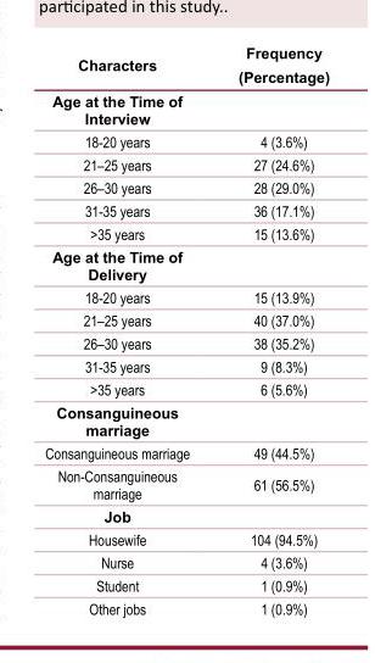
<table><thead><tr><td>Characters</td><td>Frequency (Percentage)</td></tr></thead><tbody><tr><td colspan="2">Age at the Time of Interview</td></tr><tr><td>18-20 years</td><td>4 (3.6%)</td></tr><tr><td>21–25 years</td><td>27 (24.6%)</td></tr><tr><td>26–30 years</td><td>28 (29.0%)</td></tr><tr><td>31-35 years</td><td>36 (17.1%)</td></tr><tr><td>&gt;35 years</td><td>15 (13.6%)</td></tr><tr><td colspan="2">Age at the Time of Delivery</td></tr><tr><td>18-20 years</td><td>15 (13.9%)</td></tr><tr><td>21–25 years</td><td>40 (37.0%)</td></tr><tr><td>26–30 years</td><td>38 (35.2%)</td></tr><tr><td>31-35 years</td><td>9 (8.3%)</td></tr><tr><td>&gt;35 years</td><td>6 (5.6%)</td></tr><tr><td colspan="2">Consanguineous marriage</td></tr><tr><td>Consanguineous marriage</td><td>49 (44.5%)</td></tr><tr><td>Non-Consanguineous marriage</td><td>61 (56.5%)</td></tr><tr><td colspan="2">Job</td></tr><tr><td>Housewife</td><td>104 (94.5%)</td></tr><tr><td>Nurse</td><td>4 (3.6%)</td></tr><tr><td>Student</td><td>1 (0.9%)</td></tr><tr><td>Other jobs</td><td>1 (0.9%)</td></tr></tbody></table>